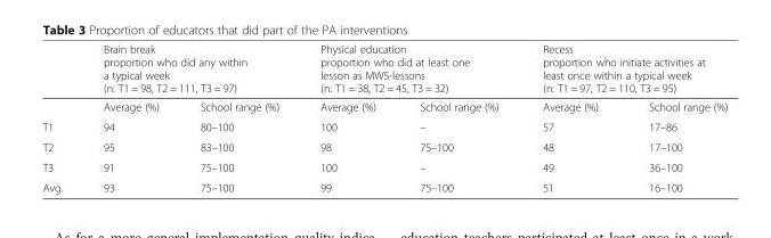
<table><thead><tr><td rowspan="2"></td><td colspan="2">Brain break proportion who did any within a typical week (n: T1 = 98, T2 = 111, T3 = 97)</td><td colspan="2">Physical education proportion who did at least one lesson as MWS-lessons (n: T1 = 38, T2 = 45, T3 = 32)</td><td colspan="2">Recess proportion who initiate activities at least once within a typical week (n: T1 = 97, T2 = 110, T3 = 95)</td></tr><tr><td>Average (%)</td><td>School range (%)</td><td>Average (%)</td><td>School range (%)</td><td>Average (%)</td><td>School range (%)</td></tr></thead><tbody><tr><td>T1</td><td>94</td><td>80–100</td><td>100</td><td>–</td><td>57</td><td>17–86</td></tr><tr><td>T2</td><td>95</td><td>83–100</td><td>98</td><td>75–100</td><td>48</td><td>17–100</td></tr><tr><td>T3</td><td>91</td><td>75–100</td><td>100</td><td>–</td><td>49</td><td>36–100</td></tr><tr><td>Avg.</td><td>93</td><td>75–100</td><td>99</td><td>75–100</td><td>51</td><td>16–100</td></tr></tbody></table>